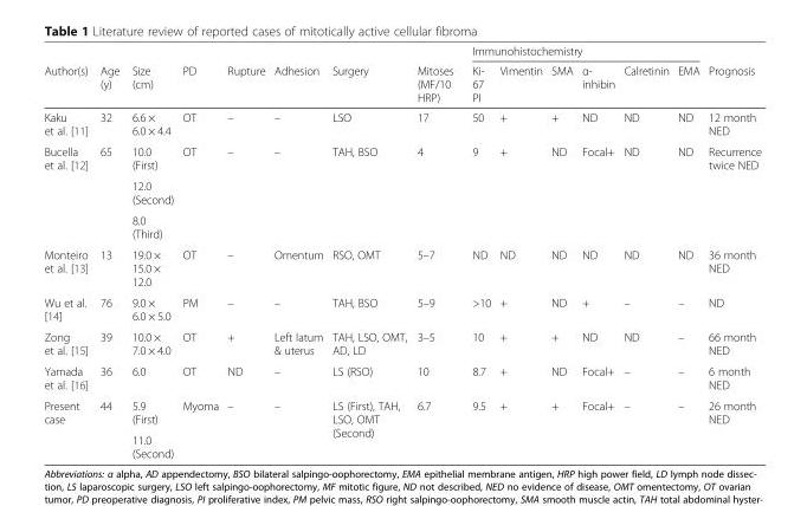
<table><thead><tr><td rowspan="2">Author(s)</td><td rowspan="2">Age (y)</td><td rowspan="2">Size (cm)</td><td rowspan="2">PD</td><td rowspan="2">Rupture</td><td rowspan="2">Adhesion</td><td rowspan="2">Surgery</td><td rowspan="2">Mitoses (MF/10 HRP)</td><td colspan="6">Immunohistochemistry</td><td rowspan="2">Prognosis</td></tr><tr><td>Ki- 67 PI</td><td>Vimentin</td><td>SMA</td><td>α- inhibin</td><td>Calretinin</td><td>EMA</td></tr></thead><tbody><tr><td>Kaku et al. [11]</td><td>32</td><td>6.6 × 6.0 × 4.4</td><td>OT</td><td>–</td><td>–</td><td>LSO</td><td>17</td><td>50</td><td>+</td><td>+</td><td>ND</td><td>ND</td><td>ND</td><td>12 month NED</td></tr><tr><td rowspan="3">Bucella et al. [12]</td><td rowspan="3">65</td><td>10.0 (First)</td><td rowspan="3">OT</td><td rowspan="3">–</td><td rowspan="3">–</td><td rowspan="3">TAH, BSO</td><td rowspan="3">4</td><td rowspan="3">9</td><td rowspan="3">+</td><td rowspan="3">ND</td><td rowspan="3">Focal+</td><td rowspan="3">ND</td><td rowspan="3">ND</td><td rowspan="3">Recurrence twice NED</td></tr><tr><td>12.0 (Second)</td></tr><tr><td>8.0 (Third)</td></tr><tr><td>Monteiro et al. [13]</td><td>13</td><td>19.0 × 15.0 × 12.0</td><td>OT</td><td>–</td><td>Omentum</td><td>RSO, OMT</td><td>5–7</td><td>ND</td><td>ND</td><td>ND</td><td>ND</td><td>ND</td><td>ND</td><td>36 month NED</td></tr><tr><td>Wu et al. [14]</td><td>76</td><td>9.0 × 6.0 × 5.0</td><td>PM</td><td>–</td><td>–</td><td>TAH, BSO</td><td>5–9</td><td>&gt;10</td><td>+</td><td>ND</td><td>+</td><td>–</td><td>–</td><td>ND</td></tr><tr><td>Zong et al. [15]</td><td>39</td><td>10.0 × 7.0 × 4.0</td><td>OT</td><td>+</td><td>Left latum &amp; uterus</td><td>TAH, LSO, OMT, AD, LD</td><td>3–5</td><td>10</td><td>+</td><td>+</td><td>ND</td><td>ND</td><td>–</td><td>66 month NED</td></tr><tr><td>Yamada et al. [16]</td><td>36</td><td>6.0</td><td>OT</td><td>ND</td><td>–</td><td>LS (RSO)</td><td>10</td><td>8.7</td><td>+</td><td>ND</td><td>Focal+</td><td>–</td><td>–</td><td>6 month NED</td></tr><tr><td rowspan="2">Present case</td><td rowspan="2">44</td><td>5.9 (First)</td><td rowspan="2">Myoma</td><td rowspan="2">–</td><td rowspan="2">–</td><td rowspan="2">LS (First), TAH, LSO, OMT (Second)</td><td rowspan="2">6.7</td><td rowspan="2">9.5</td><td rowspan="2">+</td><td rowspan="2">+</td><td rowspan="2">Focal+</td><td rowspan="2">–</td><td rowspan="2">–</td><td rowspan="2">26 month NED</td></tr><tr><td>11.0 (Second)</td></tr></tbody></table>